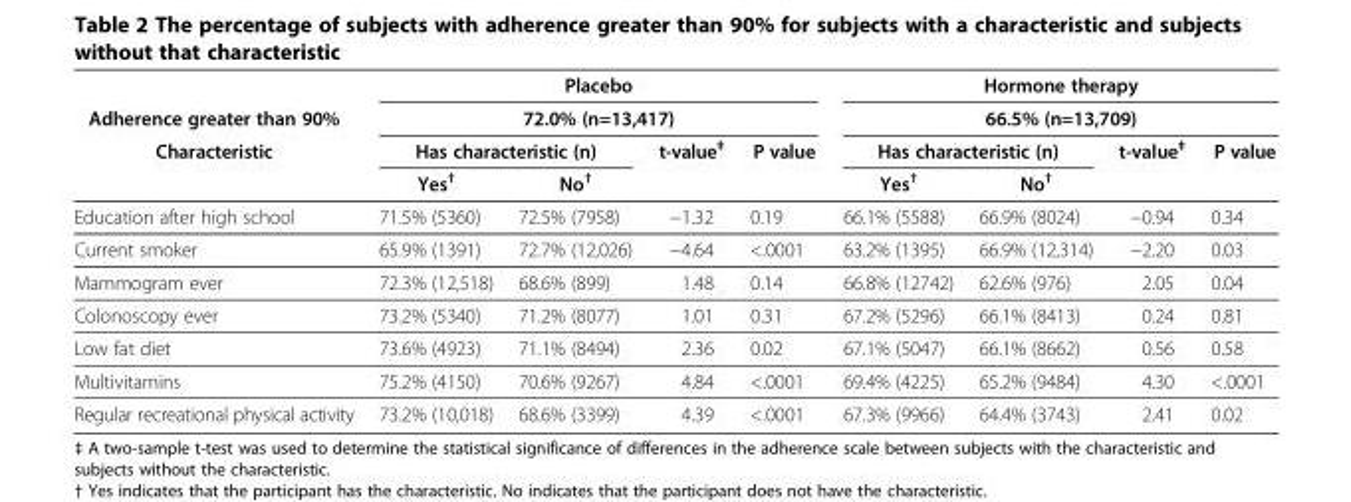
<table><thead><tr><td rowspan="4">Adherence greater than 90% Characteristic</td><td rowspan="2" colspan="4">Placebo 72.0% (n=13,417)</td><td rowspan="2" colspan="4">Hormone therapy 66.5% (n=13,709)</td></tr><tr></tr><tr><td colspan="2">Has characteristic (n)</td><td rowspan="2">t-value<sup>‡</sup></td><td rowspan="2">P value</td><td colspan="2">Has characteristic (n)</td><td rowspan="2">t-value<sup>‡</sup></td><td rowspan="2">P value</td></tr><tr><td>Yes<sup>†</sup></td><td>No<sup>†</sup></td><td>Yes<sup>†</sup></td><td>No<sup>†</sup></td></tr></thead><tbody><tr><td>Education after high school</td><td>71.5% (5360)</td><td>72.5% (7958)</td><td>−1.32</td><td>0.19</td><td>66.1% (5588)</td><td>66.9% (8024)</td><td>−0.94</td><td>0.34</td></tr><tr><td>Current smoker</td><td>65.9% (1391)</td><td>72.7% (12,026)</td><td>−4.64</td><td>&lt;.0001</td><td>63.2% (1395)</td><td>66.9% (12,314)</td><td>−2.20</td><td>0.03</td></tr><tr><td>Mammogram ever</td><td>72.3% (12,518)</td><td>68.6% (899)</td><td>1.48</td><td>0.14</td><td>66.8% (12742)</td><td>62.6% (976)</td><td>2.05</td><td>0.04</td></tr><tr><td>Colonoscopy ever</td><td>73.2% (5340)</td><td>71.2% (8077)</td><td>1.01</td><td>0.31</td><td>67.2% (5296)</td><td>66.1% (8413)</td><td>0.24</td><td>0.81</td></tr><tr><td>Low fat diet</td><td>73.6% (4923)</td><td>71.1% (8494)</td><td>2.36</td><td>0.02</td><td>67.1% (5047)</td><td>66.1% (8662)</td><td>0.56</td><td>0.58</td></tr><tr><td>Multivitamins</td><td>75.2% (4150)</td><td>70.6% (9267)</td><td>4.84</td><td>&lt;.0001</td><td>69.4% (4225)</td><td>65.2% (9484)</td><td>4.30</td><td>&lt;.0001</td></tr><tr><td>Regular recreational physical activity</td><td>73.2% (10,018)</td><td>68.6% (3399)</td><td>4.39</td><td>&lt;.0001</td><td>67.3% (9966)</td><td>64.4% (3743)</td><td>2.41</td><td>0.02</td></tr></tbody></table>